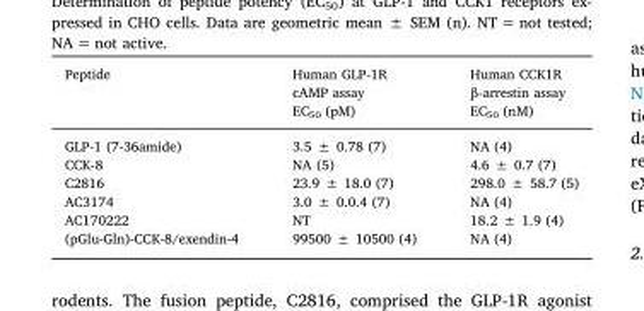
<table><thead><tr><td>Peptide</td><td>Human GLP-1R cAMP assay EC<sub>50</sub> (pM)</td><td>Human CCK1R β-arrestin assay EC<sub>50</sub> (nM)</td></tr></thead><tbody><tr><td>GLP-1 (7-36amide)</td><td>3.5 ± 0.78 (7)</td><td>NA (4)</td></tr><tr><td>CCK-8</td><td>NA (5)</td><td>4.6 ± 0.7 (7)</td></tr><tr><td>C2816</td><td>23.9 ± 18.0 (7)</td><td>298.0 ± 58.7 (5)</td></tr><tr><td>AC3174</td><td>3.0 ± 0.0.4 (7)</td><td>NA (4)</td></tr><tr><td>AC170222</td><td>NT</td><td>18.2 ± 1.9 (4)</td></tr><tr><td>(pGlu-Gln)-CCK-8/exendin-4</td><td>99500 ± 10500 (4)</td><td>NA (4)</td></tr></tbody></table>